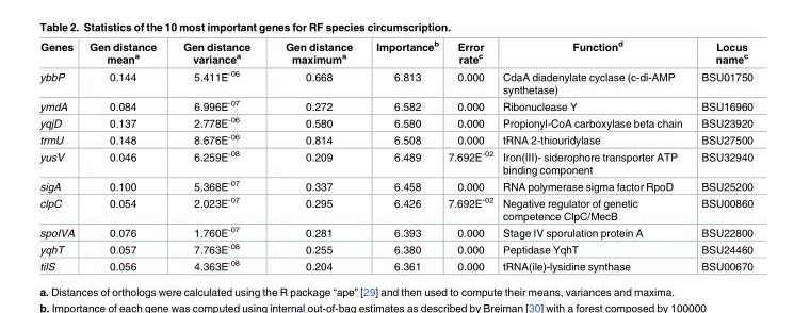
<table><thead><tr><td>Genes</td><td>Gen distance mean<sup>a</sup></td><td>Gen distance variance<sup>a</sup></td><td>Gen distance maximum<sup>a</sup></td><td>Importance<sup>b</sup></td><td>Error rate<sup>c</sup></td><td>Function<sup>d</sup></td><td>Locus name<sup>c</sup></td></tr></thead><tbody><tr><td>ybbP</td><td>0.144</td><td>5.411E<sup>-06</sup></td><td>0.668</td><td>6.813</td><td>0.000</td><td>CdaA diadenylate cyclase (c-di-AMP synthetase)</td><td>BSU01750</td></tr><tr><td>ymdA</td><td>0.084</td><td>6.996E<sup>-07</sup></td><td>0.272</td><td>6.582</td><td>0.000</td><td>Ribonuclease Y</td><td>BSU16960</td></tr><tr><td>yqjD</td><td>0.137</td><td>2.778E<sup>-06</sup></td><td>0.580</td><td>6.580</td><td>0.000</td><td>Propionyl-CoA carboxylase beta chain</td><td>BSU23920</td></tr><tr><td>trmU</td><td>0.148</td><td>8.676E<sup>-06</sup></td><td>0.814</td><td>6.508</td><td>0.000</td><td>tRNA 2-thiouridylase</td><td>BSU27500</td></tr><tr><td>yusV</td><td>0.046</td><td>6.259E<sup>-08</sup></td><td>0.209</td><td>6.489</td><td>7.692E<sup>-02</sup></td><td>Iron(III)- siderophore transporter ATP binding component</td><td>BSU32940</td></tr><tr><td>sigA</td><td>0.100</td><td>5.368E<sup>-07</sup></td><td>0.337</td><td>6.458</td><td>0.000</td><td>RNA polymerase sigma factor RpoD</td><td>BSU25200</td></tr><tr><td>clpC</td><td>0.054</td><td>2.023E<sup>-07</sup></td><td>0.295</td><td>6.426</td><td>7.692E<sup>-02</sup></td><td>Negative regulator of genetic competence ClpC/MecB</td><td>BSU00860</td></tr><tr><td>spoIVA</td><td>0.076</td><td>1.760E<sup>-07</sup></td><td>0.281</td><td>6.393</td><td>0.000</td><td>Stage IV sporulation protein A</td><td>BSU22800</td></tr><tr><td>yqhT</td><td>0.057</td><td>7.763E<sup>-08</sup></td><td>0.255</td><td>6.380</td><td>0.000</td><td>Peptidase YqhT</td><td>BSU24460</td></tr><tr><td>tilS</td><td>0.056</td><td>4.363E<sup>-08</sup></td><td>0.204</td><td>6.361</td><td>0.000</td><td>tRNA(ile)-lysidine synthase</td><td>BSU00670</td></tr></tbody></table>